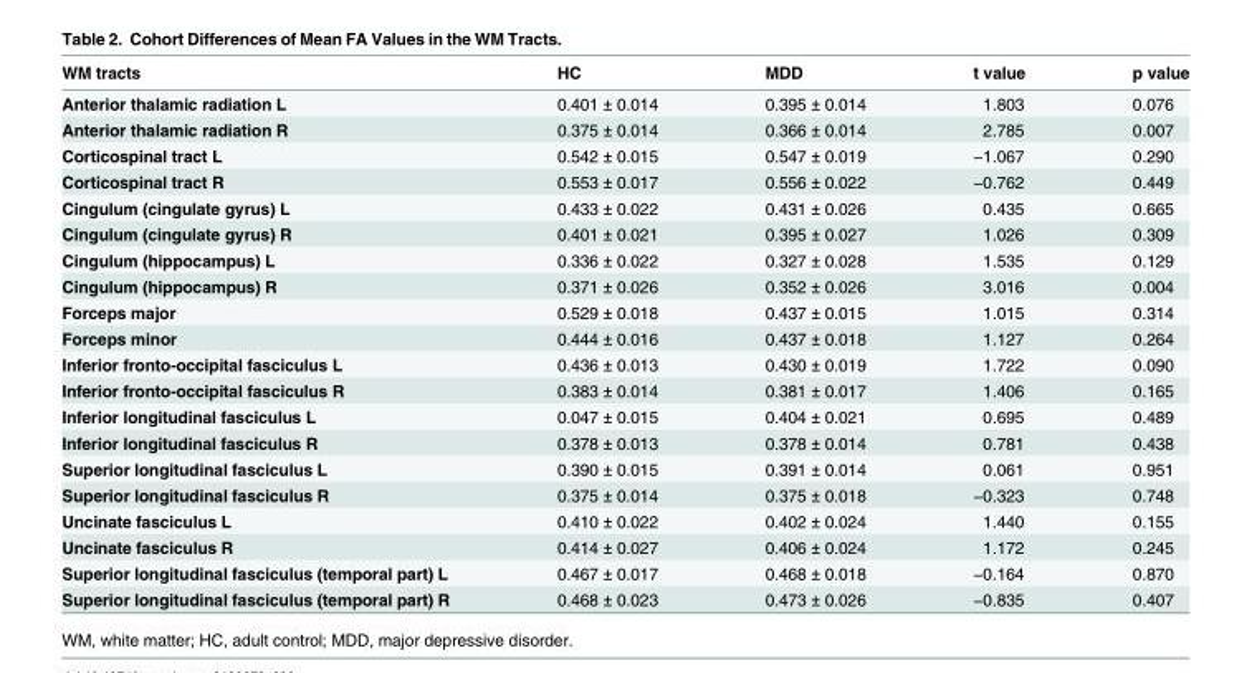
<table><thead><tr><td>WM tracts</td><td>HC</td><td>MDD</td><td>t value</td><td>p value</td></tr></thead><tbody><tr><td>Anterior thalamic radiation L</td><td>0.401 ± 0.014</td><td>0.395 ± 0.014</td><td>1.803</td><td>0.076</td></tr><tr><td>Anterior thalamic radiation R</td><td>0.375 ± 0.014</td><td>0.366 ± 0.014</td><td>2.785</td><td>0.007</td></tr><tr><td>Corticospinal tract L</td><td>0.542 ± 0.015</td><td>0.547 ± 0.019</td><td>−1.067</td><td>0.290</td></tr><tr><td>Corticospinal tract R</td><td>0.553 ± 0.017</td><td>0.556 ± 0.022</td><td>−0.762</td><td>0.449</td></tr><tr><td>Cingulum (cingulate gyrus) L</td><td>0.433 ± 0.022</td><td>0.431 ± 0.026</td><td>0.435</td><td>0.665</td></tr><tr><td>Cingulum (cingulate gyrus) R</td><td>0.401 ± 0.021</td><td>0.395 ± 0.027</td><td>1.026</td><td>0.309</td></tr><tr><td>Cingulum (hippocampus) L</td><td>0.336 ± 0.022</td><td>0.327 ± 0.028</td><td>1.535</td><td>0.129</td></tr><tr><td>Cingulum (hippocampus) R</td><td>0.371 ± 0.026</td><td>0.352 ± 0.026</td><td>3.016</td><td>0.004</td></tr><tr><td>Forceps major</td><td>0.529 ± 0.018</td><td>0.437 ± 0.015</td><td>1.015</td><td>0.314</td></tr><tr><td>Forceps minor</td><td>0.444 ± 0.016</td><td>0.437 ± 0.018</td><td>1.127</td><td>0.264</td></tr><tr><td>Inferior fronto-occipital fasciculus L</td><td>0.436 ± 0.013</td><td>0.430 ± 0.019</td><td>1.722</td><td>0.090</td></tr><tr><td>Inferior fronto-occipital fasciculus R</td><td>0.383 ± 0.014</td><td>0.381 ± 0.017</td><td>1.406</td><td>0.165</td></tr><tr><td>Inferior longitudinal fasciculus L</td><td>0.047 ± 0.015</td><td>0.404 ± 0.021</td><td>0.695</td><td>0.489</td></tr><tr><td>Inferior longitudinal fasciculus R</td><td>0.378 ± 0.013</td><td>0.378 ± 0.014</td><td>0.781</td><td>0.438</td></tr><tr><td>Superior longitudinal fasciculus L</td><td>0.390 ± 0.015</td><td>0.391 ± 0.014</td><td>0.061</td><td>0.951</td></tr><tr><td>Superior longitudinal fasciculus R</td><td>0.375 ± 0.014</td><td>0.375 ± 0.018</td><td>−0.323</td><td>0.748</td></tr><tr><td>Uncinate fasciculus L</td><td>0.410 ± 0.022</td><td>0.402 ± 0.024</td><td>1.440</td><td>0.155</td></tr><tr><td>Uncinate fasciculus R</td><td>0.414 ± 0.027</td><td>0.406 ± 0.024</td><td>1.172</td><td>0.245</td></tr><tr><td>Superior longitudinal fasciculus (temporal part) L</td><td>0.467 ± 0.017</td><td>0.468 ± 0.018</td><td>−0.164</td><td>0.870</td></tr><tr><td>Superior longitudinal fasciculus (temporal part) R</td><td>0.468 ± 0.023</td><td>0.473 ± 0.026</td><td>−0.835</td><td>0.407</td></tr></tbody></table>